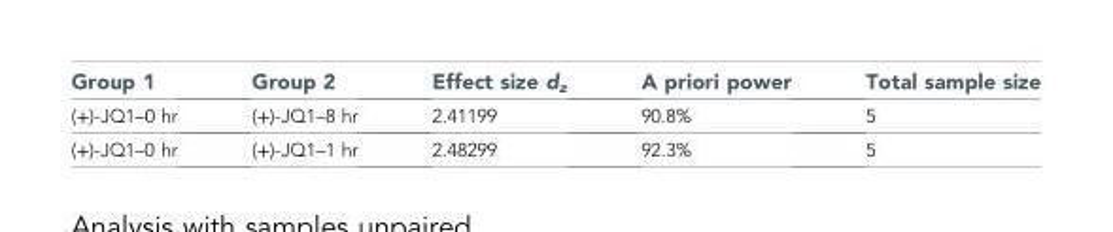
<table><thead><tr><td>Group 1</td><td>Group 2</td><td>Effect size d<sub>z</sub></td><td>A priori power</td><td>Total sample size</td></tr></thead><tbody><tr><td>(+)-JQ1–0 hr</td><td>(+)-JQ1–8 hr</td><td>2.41199</td><td>90.8%</td><td>5</td></tr><tr><td>(+)-JQ1–0 hr</td><td>(+)-JQ1–1 hr</td><td>2.48299</td><td>92.3%</td><td>5</td></tr></tbody></table>